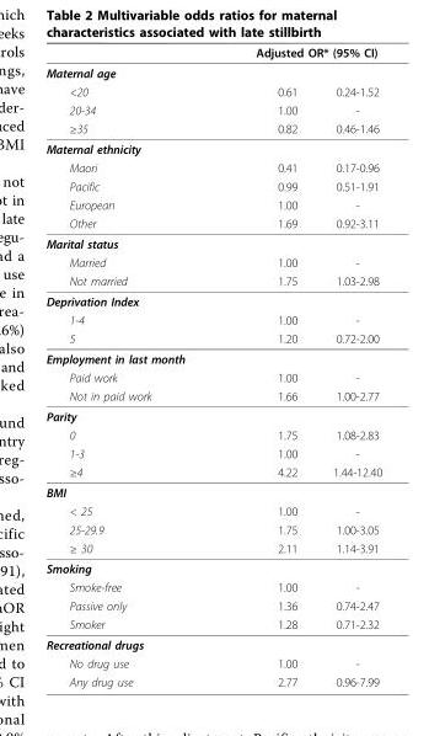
<table><thead><tr><td rowspan="2">Maternal age</td><td colspan="2">Adjusted OR* (95% CI)</td></tr><tr><td></td><td></td></tr></thead><tbody><tr><td>&lt;20</td><td>0.61</td><td>0.24-1.52</td></tr><tr><td>20-34</td><td>1.00</td><td>-</td></tr><tr><td>≥35</td><td>0.82</td><td>0.46-1.46</td></tr><tr><td colspan="3">Maternal ethnicity</td></tr><tr><td>Maori</td><td>0.41</td><td>0.17-0.96</td></tr><tr><td>Pacific</td><td>0.99</td><td>0.51-1.91</td></tr><tr><td>European</td><td>1.00</td><td>-</td></tr><tr><td>Other</td><td>1.69</td><td>0.92-3.11</td></tr><tr><td colspan="3">Marital status</td></tr><tr><td>Married</td><td>1.00</td><td>-</td></tr><tr><td>Not married</td><td>1.75</td><td>1.03-2.98</td></tr><tr><td colspan="3">Deprivation Index</td></tr><tr><td>1-4</td><td>1.00</td><td>-</td></tr><tr><td>5</td><td>1.20</td><td>0.72-2.00</td></tr><tr><td colspan="3">Employment in last month</td></tr><tr><td>Paid work</td><td>1.00</td><td>-</td></tr><tr><td>Not in paid work</td><td>1.66</td><td>1.00-2.77</td></tr><tr><td colspan="3">Parity</td></tr><tr><td>0</td><td>1.75</td><td>1.08-2.83</td></tr><tr><td>1-3</td><td>1.00</td><td>-</td></tr><tr><td>≥4</td><td>4.22</td><td>1.44-12.40</td></tr><tr><td colspan="3">BMI</td></tr><tr><td>&lt; 25</td><td>1.00</td><td>-</td></tr><tr><td>25-29.9</td><td>1.75</td><td>1.00-3.05</td></tr><tr><td>≥ 30</td><td>2.11</td><td>1.14-3.91</td></tr><tr><td colspan="3">Smoking</td></tr><tr><td>Smoke-free</td><td>1.00</td><td>-</td></tr><tr><td>Passive only</td><td>1.36</td><td>0.74-2.47</td></tr><tr><td>Smoker</td><td>1.28</td><td>0.71-2.32</td></tr><tr><td colspan="3">Recreational drugs</td></tr><tr><td>No drug use</td><td>1.00</td><td>-</td></tr><tr><td>Any drug use</td><td>2.77</td><td>0.96-7.99</td></tr></tbody></table>